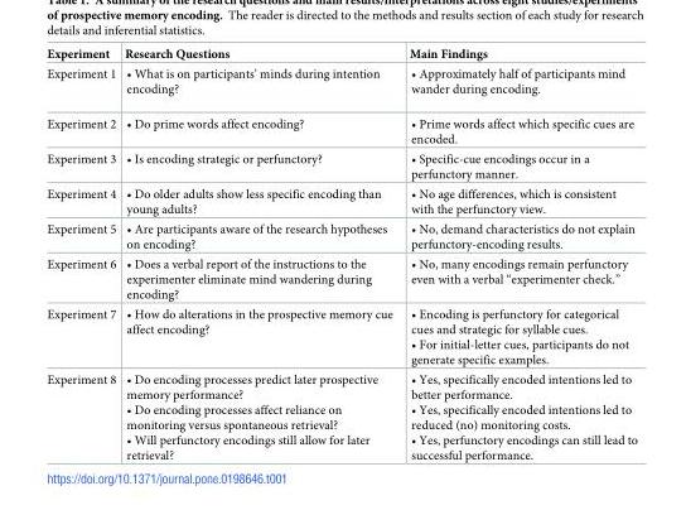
<table><thead><tr><td>Experiment</td><td>Research Questions</td><td>Main Findings</td></tr></thead><tbody><tr><td>Experiment 1</td><td>• What is on participants’ minds during intention encoding?</td><td>• Approximately half of participants mind wander during encoding.</td></tr><tr><td>Experiment 2</td><td>• Do prime words affect encoding?</td><td>• Prime words affect which specific cues are encoded.</td></tr><tr><td>Experiment 3</td><td>• Is encoding strategic or perfunctory?</td><td>• Specific-cue encodings occur in a perfunctory manner.</td></tr><tr><td>Experiment 4</td><td>• Do older adults show less specific encoding than young adults?</td><td>• No age differences, which is consistent with the perfunctory view.</td></tr><tr><td>Experiment 5</td><td>• Are participants aware of the research hypotheses on encoding?</td><td>• No, demand characteristics do not explain perfunctory-encoding results.</td></tr><tr><td>Experiment 6</td><td>• Does a verbal report of the instructions to the experimenter eliminate mind wandering during encoding?</td><td>• No, many encodings remain perfunctory even with a verbal “experimenter check.”</td></tr><tr><td>Experiment 7</td><td>• How do alterations in the prospective memory cue affect encoding?</td><td>• Encoding is perfunctory for categorical cues and strategic for syllable cues. • For initial-letter cues, participants do not generate specific examples.</td></tr><tr><td>Experiment 8</td><td>• Do encoding processes predict later prospective memory performance? • Do encoding processes affect reliance on monitoring versus spontaneous retrieval? • Will perfunctory encodings still allow for later retrieval?</td><td>• Yes, specifically encoded intentions led to better performance. • Yes, specifically encoded intentions led to reduced (no) monitoring costs. • Yes, perfunctory encodings can still lead to successful performance.</td></tr></tbody></table>